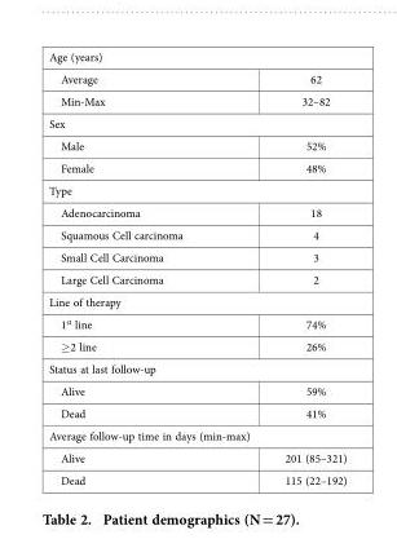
<table><tbody><tr><td colspan="2">Age (years)</td></tr><tr><td>Average</td><td>62</td></tr><tr><td>Min-Max</td><td>32–82</td></tr><tr><td colspan="2">Sex</td></tr><tr><td>Male</td><td>52%</td></tr><tr><td>Female</td><td>48%</td></tr><tr><td colspan="2">Type</td></tr><tr><td>Adenocarcinoma</td><td>18</td></tr><tr><td>Squamous Cell carcinoma</td><td>4</td></tr><tr><td>Small Cell Carcinoma</td><td>3</td></tr><tr><td>Large Cell Carcinoma</td><td>2</td></tr><tr><td colspan="2">Line of therapy</td></tr><tr><td>1<sup>st</sup> line</td><td>74%</td></tr><tr><td>≥ 2 line</td><td>26%</td></tr><tr><td colspan="2">Status at last follow-up</td></tr><tr><td>Alive</td><td>59%</td></tr><tr><td>Dead</td><td>41%</td></tr><tr><td colspan="2">Average follow-up time in days (min-max)</td></tr><tr><td>Alive</td><td>201 (85–321)</td></tr><tr><td>Dead</td><td>115 (22–192)</td></tr></tbody></table>